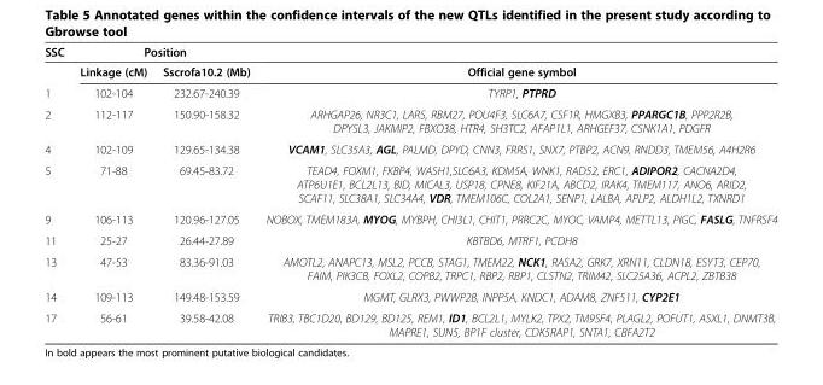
<table><thead><tr><td rowspan="2">SSC</td><td colspan="2">Position</td><td rowspan="2">Official gene symbol</td></tr><tr><td>Linkage (cM)</td><td>Sscrofa10.2 (Mb)</td></tr></thead><tbody><tr><td>1</td><td>102-104</td><td>232.67-240.39</td><td>TYRP1, PTPRD</td></tr><tr><td>2</td><td>112-117</td><td>150.90-158.32</td><td>ARHGAP26, NR3C1, LARS, RBM27, POU4F3, SLC6A7, CSF1R, HMGXB3, PPARGC1B, PPP2R2B, DPYSL3, JAKMIP2, FBXO38, HTR4, SH3TC2, AFAP1L1, ARHGEF37, CSNK1A1, PDGFR</td></tr><tr><td>4</td><td>102-109</td><td>129.65-134.38</td><td>VCAM1, SLC35A3, AGL, PALMD, DPYD, CNN3, FRRS1, SNX7, PTBP2, ACN9, RNDD3, TMEM56, A4H2R6</td></tr><tr><td>5</td><td>71-88</td><td>69.45-83.72</td><td>TEAD4, FOXM1, FKBP4, WASH1,SLC6A3, KDM5A, WNK1, RAD52, ERC1, ADIPOR2, CACNA2D4, ATP6U1E1, BCL2L13, BID, MICAL3, USP18, CPNE8, KIF21A, ABCD2, IRAK4, TMEM117, ANO6, ARID2, SCAF11, SLC38A1, SLC34A4, VDR, TMEM106C, COL2A1, SENP1, LALBA, APLP2, ALDH1L2, TXNRD1</td></tr><tr><td>9</td><td>106-113</td><td>120.96-127.05</td><td>NOBOX, TMEM183A, MYOG, MYBPH, CHI3L1, CHIT1, PRRC2C, MYOC, VAMP4, METTL13, PIGC, FASLG, TNFRSF4</td></tr><tr><td>11</td><td>25-27</td><td>26.44-27.89</td><td>KBTBD6, MTRF1, PCDH8</td></tr><tr><td>13</td><td>47-53</td><td>83.36-91.03</td><td>AMOTL2, ANAPC13, MSL2, PCCB, STAG1, TMEM22, NCK1, RASA2, GRK7, XRN11, CLDN18, ESYT3, CEP70, FAIM, PIK3CB, FOXL2, COPB2, TRPC1, RBP2, RBP1, CLSTN2, TRIM42, SLC25A36, ACPL2, ZBTB38</td></tr><tr><td>14</td><td>109-113</td><td>149.48-153.59</td><td>MGMT, GLRX3, PWWP2B, INPP5A, KNDC1, ADAM8, ZNF511, CYP2E1</td></tr><tr><td>17</td><td>56-61</td><td>39.58-42.08</td><td>TRIB3, TBC1D20, BD129, BD125, REM1, ID1, BCL2L1, MYLK2, TPX2, TM9SF4, PLAGL2, POFUT1, ASXL1, DNMT3B, MAPRE1, SUN5, BP1F cluster, CDK5RAP1, SNTA1, CBFA2T2</td></tr></tbody></table>